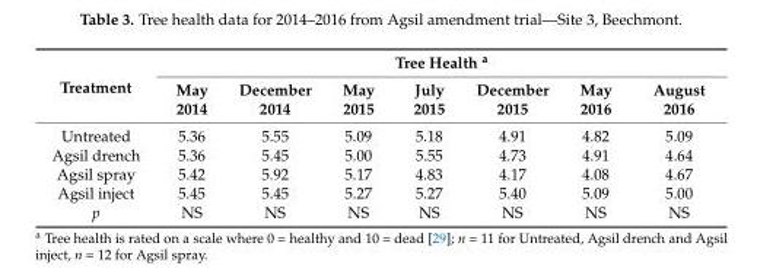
<table><thead><tr><td rowspan="2">Treatment</td><td colspan="7">Tree Health <sup>a</sup></td></tr><tr><td>May 2014</td><td>December 2014</td><td>May 2015</td><td>July 2015</td><td>December 2015</td><td>May 2016</td><td>August 2016</td></tr></thead><tbody><tr><td>Untreated</td><td>5.36</td><td>5.55</td><td>5.09</td><td>5.18</td><td>4.91</td><td>4.82</td><td>5.09</td></tr><tr><td>Agsil drench</td><td>5.36</td><td>5.45</td><td>5.00</td><td>5.55</td><td>4.73</td><td>4.91</td><td>4.64</td></tr><tr><td>Agsil spray</td><td>5.42</td><td>5.92</td><td>5.17</td><td>4.83</td><td>4.17</td><td>4.08</td><td>4.67</td></tr><tr><td>Agsil inject</td><td>5.45</td><td>5.45</td><td>5.27</td><td>5.27</td><td>5.40</td><td>5.09</td><td>5.00</td></tr><tr><td>p</td><td>NS</td><td>NS</td><td>NS</td><td>NS</td><td>NS</td><td>NS</td><td>NS</td></tr></tbody></table>